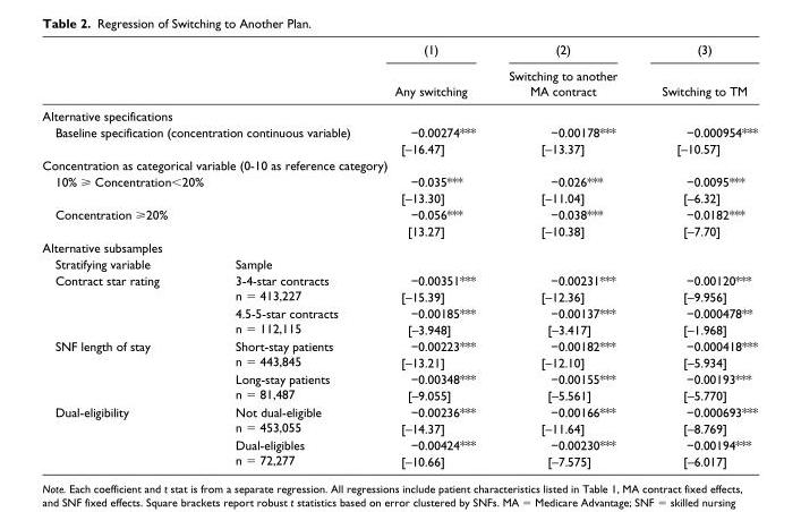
<table><thead><tr><td rowspan="2"></td><td rowspan="2"></td><td rowspan="2">(1) Any switching</td><td rowspan="2">(2) Switching to another MA contract</td><td rowspan="2">(3) Switching to TM</td></tr><tr></tr></thead><tbody><tr><td colspan="5">Alternative specifications</td></tr><tr><td rowspan="2" colspan="2">Baseline specification (concentration continuous variable)</td><td>−0.00274***</td><td>−0.00178***</td><td>−0.000954***</td></tr><tr><td>[–16.47]</td><td>[–13.37]</td><td>[–10.57]</td></tr><tr><td colspan="5">Concentration as categorical variable (0-10 as reference category)</td></tr><tr><td rowspan="2">10% ⩾ Concentration&lt;20%</td><td></td><td>−0.035***</td><td>−0.026***</td><td>−0.0095***</td></tr><tr><td></td><td>[–13.30]</td><td>[–11.04]</td><td>[–6.32]</td></tr><tr><td rowspan="2">Concentration ⩾20%</td><td></td><td>−0.056***</td><td>−0.038***</td><td>−0.0182***</td></tr><tr><td></td><td>[13.27]</td><td>[–10.38]</td><td>[–7.70]</td></tr><tr><td colspan="5">Alternative subsamples</td></tr><tr><td>Stratifying variable</td><td>Sample</td><td></td><td></td><td></td></tr><tr><td rowspan="4">Contract star rating</td><td rowspan="2">3-4-star contracts n = 413,227</td><td>−0.00351***</td><td>−0.00231***</td><td>−0.00120***</td></tr><tr><td>[–15.39]</td><td>[–12.36]</td><td>[–9.956]</td></tr><tr><td rowspan="2">4.5-5-star contracts n = 112,115</td><td>−0.00185***</td><td>−0.00137***</td><td>−0.000478**</td></tr><tr><td>[–3.948]</td><td>[–3.417]</td><td>[–1.968]</td></tr><tr><td rowspan="4">SNF length of stay</td><td rowspan="2">Short-stay patients n = 443,845</td><td>−0.00223***</td><td>−0.00182***</td><td>−0.000418***</td></tr><tr><td>[–13.21]</td><td>[–12.10]</td><td>[–5.934]</td></tr><tr><td rowspan="2">Long-stay patients n = 81,487</td><td>−0.00348***</td><td>−0.00155***</td><td>−0.00193***</td></tr><tr><td>[–9.055]</td><td>[–5.561]</td><td>[–5.770]</td></tr><tr><td rowspan="4">Dual-eligibility</td><td rowspan="2">Not dual-eligible n = 453,055</td><td>−0.00236***</td><td>−0.00166***</td><td>−0.000693***</td></tr><tr><td>[–14.37]</td><td>[–11.64]</td><td>[–8.769]</td></tr><tr><td rowspan="2">Dual-eligibles n = 72,277</td><td>−0.00424***</td><td>−0.00230***</td><td>−0.00194***</td></tr><tr><td>[–10.66]</td><td>[–7.575]</td><td>[–6.017]</td></tr></tbody></table>